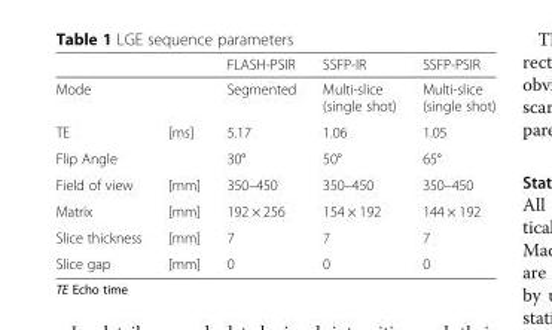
<table><thead><tr><td></td><td></td><td>FLASH-PSIR</td><td>SSFP-IR</td><td>SSFP-PSIR</td></tr></thead><tbody><tr><td>Mode</td><td></td><td>Segmented</td><td>Multi-slice (single shot)</td><td>Multi-slice (single shot)</td></tr><tr><td>TE</td><td>[ms]</td><td>5.17</td><td>1.06</td><td>1.05</td></tr><tr><td>Flip Angle</td><td></td><td>30°</td><td>50°</td><td>65°</td></tr><tr><td>Field of view</td><td>[mm]</td><td>350–450</td><td>350–450</td><td>350–450</td></tr><tr><td>Matrix</td><td>[mm]</td><td>192 × 256</td><td>154 × 192</td><td>144 × 192</td></tr><tr><td>Slice thickness</td><td>[mm]</td><td>7</td><td>7</td><td>7</td></tr><tr><td>Slice gap</td><td>[mm]</td><td>0</td><td>0</td><td>0</td></tr></tbody></table>